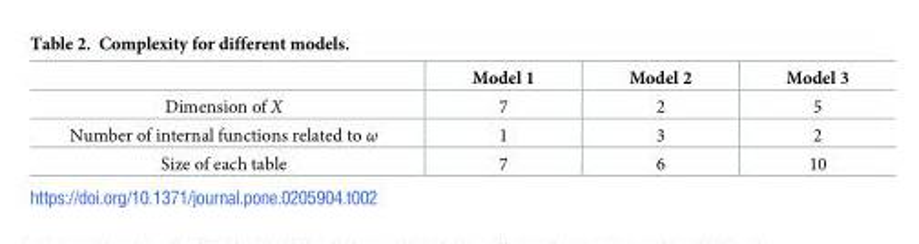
<table><thead><tr><td></td><td>Model 1</td><td>Model 2</td><td>Model 3</td></tr></thead><tbody><tr><td>Dimension of X</td><td>7</td><td>2</td><td>5</td></tr><tr><td>Number of internal functions related to ω</td><td>1</td><td>3</td><td>2</td></tr><tr><td>Size of each table</td><td>7</td><td>6</td><td>10</td></tr></tbody></table>